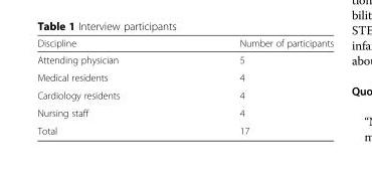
<table><thead><tr><td>Discipline</td><td>Number of participants</td></tr></thead><tbody><tr><td>Attending physician</td><td>5</td></tr><tr><td>Medical residents</td><td>4</td></tr><tr><td>Cardiology residents</td><td>4</td></tr><tr><td>Nursing staff</td><td>4</td></tr><tr><td>Total</td><td>17</td></tr></tbody></table>